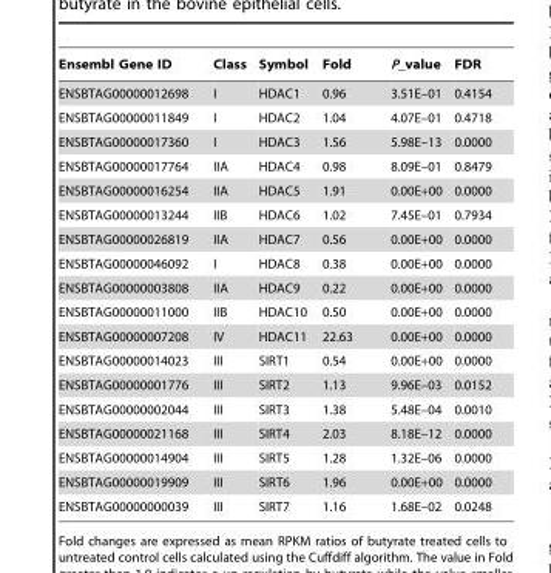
<table><thead><tr><td>Ensembl Gene ID</td><td>Class</td><td>Symbol</td><td>Fold</td><td>P_value</td><td>FDR</td></tr></thead><tbody><tr><td>ENSBTAG00000012698</td><td>I</td><td>HDAC1</td><td>0.96</td><td>3.51E–01</td><td>0.4154</td></tr><tr><td>ENSBTAG00000011849</td><td>I</td><td>HDAC2</td><td>1.04</td><td>4.07E–01</td><td>0.4718</td></tr><tr><td>ENSBTAG00000017360</td><td>I</td><td>HDAC3</td><td>1.56</td><td>5.98E–13</td><td>0.0000</td></tr><tr><td>ENSBTAG00000017764</td><td>IIA</td><td>HDAC4</td><td>0.98</td><td>8.09E–01</td><td>0.8479</td></tr><tr><td>ENSBTAG00000016254</td><td>IIA</td><td>HDAC5</td><td>1.91</td><td>0.00E+00</td><td>0.0000</td></tr><tr><td>ENSBTAG00000013244</td><td>IIB</td><td>HDAC6</td><td>1.02</td><td>7.45E–01</td><td>0.7934</td></tr><tr><td>ENSBTAG00000026819</td><td>IIA</td><td>HDAC7</td><td>0.56</td><td>0.00E+00</td><td>0.0000</td></tr><tr><td>ENSBTAG00000046092</td><td>I</td><td>HDAC8</td><td>0.38</td><td>0.00E+00</td><td>0.0000</td></tr><tr><td>ENSBTAG00000003808</td><td>IIA</td><td>HDAC9</td><td>0.22</td><td>0.00E+00</td><td>0.0000</td></tr><tr><td>ENSBTAG00000011000</td><td>IIB</td><td>HDAC10</td><td>0.50</td><td>0.00E+00</td><td>0.0000</td></tr><tr><td>ENSBTAG00000007208</td><td>IV</td><td>HDAC11</td><td>22.63</td><td>0.00E+00</td><td>0.0000</td></tr><tr><td>ENSBTAG00000014023</td><td>III</td><td>SIRT1</td><td>0.54</td><td>0.00E+00</td><td>0.0000</td></tr><tr><td>ENSBTAG00000001776</td><td>III</td><td>SIRT2</td><td>1.13</td><td>9.96E–03</td><td>0.0152</td></tr><tr><td>ENSBTAG00000002044</td><td>III</td><td>SIRT3</td><td>1.38</td><td>5.48E–04</td><td>0.0010</td></tr><tr><td>ENSBTAG00000021168</td><td>III</td><td>SIRT4</td><td>2.03</td><td>8.18E–12</td><td>0.0000</td></tr><tr><td>ENSBTAG00000014904</td><td>III</td><td>SIRT5</td><td>1.28</td><td>1.32E–06</td><td>0.0000</td></tr><tr><td>ENSBTAG00000019909</td><td>III</td><td>SIRT6</td><td>1.96</td><td>0.00E+00</td><td>0.0000</td></tr><tr><td>ENSBTAG00000000039</td><td>III</td><td>SIRT7</td><td>1.16</td><td>1.68E–02</td><td>0.0248</td></tr></tbody></table>